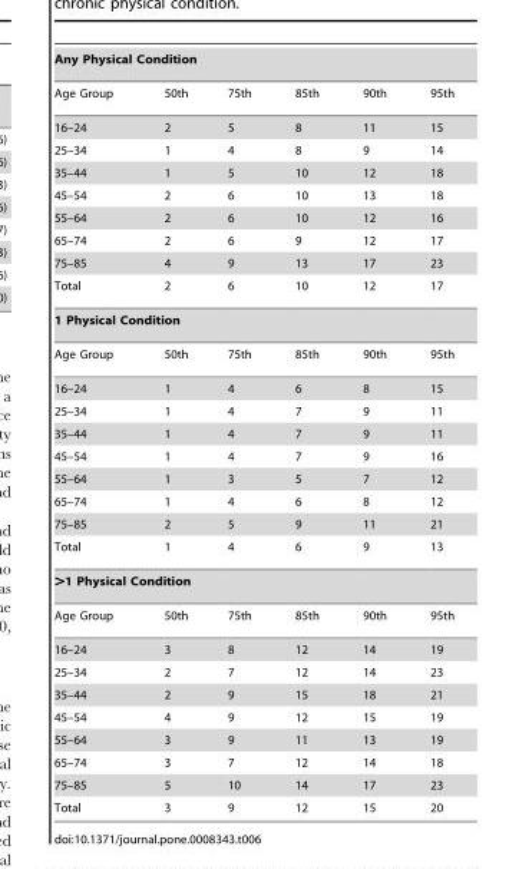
<table><tbody><tr><td colspan="6">Any Physical Condition</td></tr><tr><td>Age Group</td><td>50th</td><td>75th</td><td>85th</td><td>90th</td><td>95th</td></tr><tr><td>16–24</td><td>2</td><td>5</td><td>8</td><td>11</td><td>15</td></tr><tr><td>25–34</td><td>1</td><td>4</td><td>8</td><td>9</td><td>14</td></tr><tr><td>35–44</td><td>1</td><td>5</td><td>10</td><td>12</td><td>18</td></tr><tr><td>45–54</td><td>2</td><td>6</td><td>10</td><td>13</td><td>18</td></tr><tr><td>55–64</td><td>2</td><td>6</td><td>10</td><td>12</td><td>16</td></tr><tr><td>65–74</td><td>2</td><td>6</td><td>9</td><td>12</td><td>17</td></tr><tr><td>75–85</td><td>4</td><td>9</td><td>13</td><td>17</td><td>23</td></tr><tr><td>Total</td><td>2</td><td>6</td><td>10</td><td>12</td><td>17</td></tr><tr><td colspan="6">1 Physical Condition</td></tr><tr><td>Age Group</td><td>50th</td><td>75th</td><td>85th</td><td>90th</td><td>95th</td></tr><tr><td>16–24</td><td>1</td><td>4</td><td>6</td><td>8</td><td>15</td></tr><tr><td>25–34</td><td>1</td><td>4</td><td>7</td><td>9</td><td>11</td></tr><tr><td>35–44</td><td>1</td><td>4</td><td>7</td><td>9</td><td>11</td></tr><tr><td>45–54</td><td>1</td><td>4</td><td>7</td><td>9</td><td>16</td></tr><tr><td>55–64</td><td>1</td><td>3</td><td>5</td><td>7</td><td>12</td></tr><tr><td>65–74</td><td>1</td><td>4</td><td>6</td><td>8</td><td>12</td></tr><tr><td>75–85</td><td>2</td><td>5</td><td>9</td><td>11</td><td>21</td></tr><tr><td>Total</td><td>1</td><td>4</td><td>6</td><td>9</td><td>13</td></tr><tr><td colspan="6">&gt;1 Physical Condition</td></tr><tr><td>Age Group</td><td>50th</td><td>75th</td><td>85th</td><td>90th</td><td>95th</td></tr><tr><td>16–24</td><td>3</td><td>8</td><td>12</td><td>14</td><td>19</td></tr><tr><td>25–34</td><td>2</td><td>7</td><td>12</td><td>14</td><td>23</td></tr><tr><td>35–44</td><td>2</td><td>9</td><td>15</td><td>18</td><td>21</td></tr><tr><td>45–54</td><td>4</td><td>9</td><td>12</td><td>15</td><td>19</td></tr><tr><td>55–64</td><td>3</td><td>9</td><td>11</td><td>13</td><td>19</td></tr><tr><td>65–74</td><td>3</td><td>7</td><td>12</td><td>14</td><td>18</td></tr><tr><td>75–85</td><td>5</td><td>10</td><td>14</td><td>17</td><td>23</td></tr><tr><td>Total</td><td>3</td><td>9</td><td>12</td><td>15</td><td>20</td></tr></tbody></table>